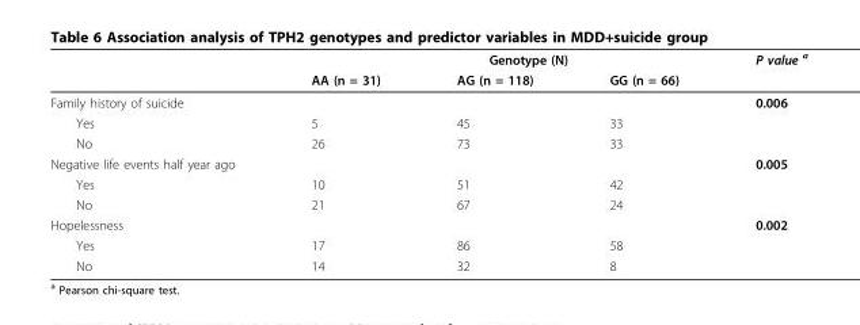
<table><thead><tr><td rowspan="2"></td><td colspan="3">Genotype (N)</td><td rowspan="2">P value <sup>a</sup></td></tr><tr><td>AA (n = 31)</td><td>AG (n = 118)</td><td>GG (n = 66)</td></tr></thead><tbody><tr><td>Family history of suicide</td><td></td><td></td><td></td><td>0.006</td></tr><tr><td>Yes</td><td>5</td><td>45</td><td>33</td><td></td></tr><tr><td>No</td><td>26</td><td>73</td><td>33</td><td></td></tr><tr><td>Negative life events half year ago</td><td></td><td></td><td></td><td>0.005</td></tr><tr><td>Yes</td><td>10</td><td>51</td><td>42</td><td></td></tr><tr><td>No</td><td>21</td><td>67</td><td>24</td><td></td></tr><tr><td>Hopelessness</td><td></td><td></td><td></td><td>0.002</td></tr><tr><td>Yes</td><td>17</td><td>86</td><td>58</td><td></td></tr><tr><td>No</td><td>14</td><td>32</td><td>8</td><td></td></tr></tbody></table>